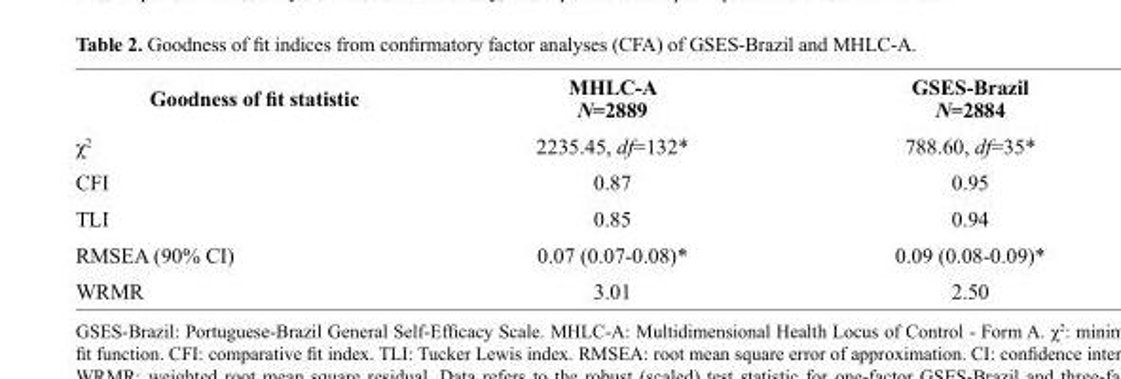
<table><thead><tr><td>Goodness of fit statistic</td><td>MHLC-A N=2889</td><td>GSES-Brazil N=2884</td></tr></thead><tbody><tr><td>χ<sup>2</sup></td><td>2235.45, df=132*</td><td>788.60, df=35*</td></tr><tr><td>CFI</td><td>0.87</td><td>0.95</td></tr><tr><td>TLI</td><td>0.85</td><td>0.94</td></tr><tr><td>RMSEA (90% CI)</td><td>0.07 (0.07-0.08)*</td><td>0.09 (0.08-0.09)*</td></tr><tr><td>WRMR</td><td>3.01</td><td>2.50</td></tr></tbody></table>